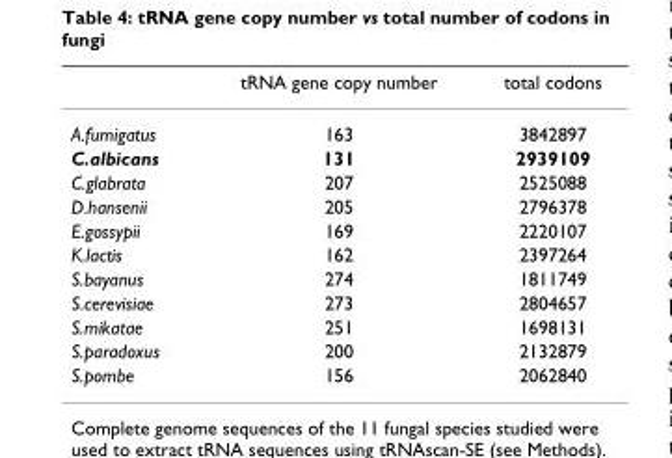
<table><thead><tr><td></td><td>tRNA gene copy number</td><td>total codons</td></tr></thead><tbody><tr><td>A.fumigatus</td><td>163</td><td>3842897</td></tr><tr><td>C.albicans</td><td>131</td><td>2939109</td></tr><tr><td>C.glabrata</td><td>207</td><td>2525088</td></tr><tr><td>D.hansenii</td><td>205</td><td>2796378</td></tr><tr><td>E.gossypii</td><td>169</td><td>2220107</td></tr><tr><td>K.lactis</td><td>162</td><td>2397264</td></tr><tr><td>S.bayanus</td><td>274</td><td>1811749</td></tr><tr><td>S.cerevisiae</td><td>273</td><td>2804657</td></tr><tr><td>S.mikatae</td><td>251</td><td>1698131</td></tr><tr><td>S.paradoxus</td><td>200</td><td>2132879</td></tr><tr><td>S.pombe</td><td>156</td><td>2062840</td></tr></tbody></table>